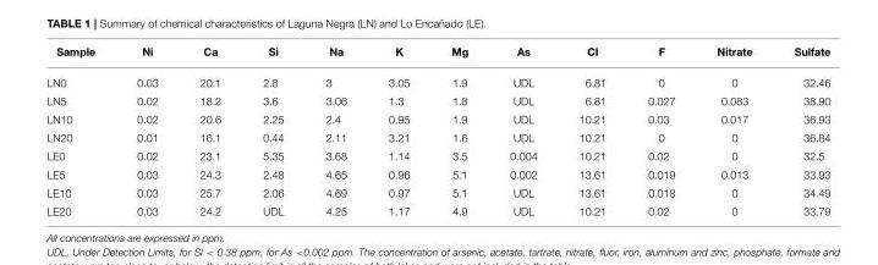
<table><thead><tr><td>Sample</td><td>Ni</td><td>Ca</td><td>Si</td><td>Na</td><td>K</td><td>Mg</td><td>As</td><td>CI</td><td>F</td><td>Nitrate</td><td>Sulfate</td></tr></thead><tbody><tr><td>LN0</td><td>0.03</td><td>20.1</td><td>2.8</td><td>3</td><td>3.05</td><td>1.9</td><td>UDL</td><td>6.81</td><td>0</td><td>0</td><td>32.46</td></tr><tr><td>LN5</td><td>0.02</td><td>18.2</td><td>3.6</td><td>3.06</td><td>1.3</td><td>1.8</td><td>UDL</td><td>6.81</td><td>0.027</td><td>0.083</td><td>38.90</td></tr><tr><td>LN10</td><td>0.02</td><td>20.6</td><td>2.25</td><td>2.4</td><td>0.95</td><td>1.9</td><td>UDL</td><td>10.21</td><td>0.03</td><td>0.017</td><td>36.93</td></tr><tr><td>LN20</td><td>0.01</td><td>16.1</td><td>0.44</td><td>2.11</td><td>3.21</td><td>1.6</td><td>UDL</td><td>10.21</td><td>0</td><td>0</td><td>36.84</td></tr><tr><td>LE0</td><td>0.02</td><td>23.1</td><td>5.35</td><td>3.68</td><td>1.14</td><td>3.5</td><td>0.004</td><td>10.21</td><td>0.02</td><td>0</td><td>32.5</td></tr><tr><td>LE5</td><td>0.03</td><td>24.3</td><td>2.48</td><td>4.65</td><td>0.96</td><td>5.1</td><td>0.002</td><td>13.61</td><td>0.019</td><td>0.013</td><td>33.93</td></tr><tr><td>LE10</td><td>0.03</td><td>25.7</td><td>2.06</td><td>4.69</td><td>0.97</td><td>5.1</td><td>UDL</td><td>13.61</td><td>0.018</td><td>0</td><td>34.49</td></tr><tr><td>LE20</td><td>0.03</td><td>24.2</td><td>UDL</td><td>4.25</td><td>1.17</td><td>4.9</td><td>UDL</td><td>10.21</td><td>0.02</td><td>0</td><td>33.79</td></tr></tbody></table>